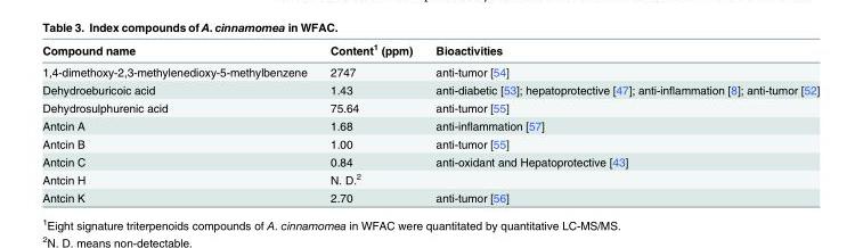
<table><thead><tr><td>Compound name</td><td>Content<sup>1</sup> (ppm)</td><td>Bioactivities</td></tr></thead><tbody><tr><td>1,4-dimethoxy-2,3-methylenedioxy-5-methylbenzene</td><td>2747</td><td>anti-tumor [54]</td></tr><tr><td>Dehydroeburicoic acid</td><td>1.43</td><td>anti-diabetic [53]; hepatoprotective [47]; anti-inflammation [8]; anti-tumor [52]</td></tr><tr><td>Dehydrosulphurenic acid</td><td>75.64</td><td>anti-tumor [55]</td></tr><tr><td>Antcin A</td><td>1.68</td><td>anti-inflammation [57]</td></tr><tr><td>Antcin B</td><td>1.00</td><td>anti-tumor [55]</td></tr><tr><td>Antcin C</td><td>0.84</td><td>anti-oxidant and Hepatoprotective [43]</td></tr><tr><td>Antcin H</td><td>N. D.<sup>2</sup></td><td></td></tr><tr><td>Antcin K</td><td>2.70</td><td>anti-tumor [56]</td></tr></tbody></table>